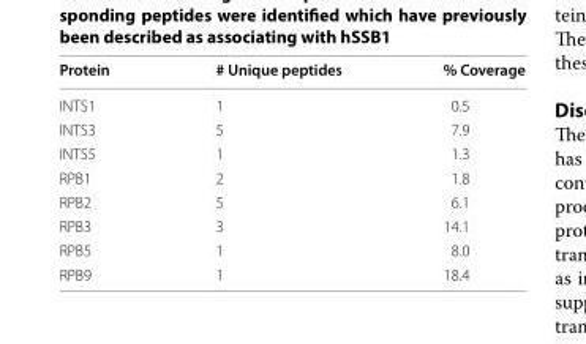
<table><thead><tr><td>Protein</td><td># Unique peptides</td><td>% Coverage</td></tr></thead><tbody><tr><td>INTS1</td><td>1</td><td>0.5</td></tr><tr><td>INTS3</td><td>5</td><td>7.9</td></tr><tr><td>INTS5</td><td>1</td><td>1.3</td></tr><tr><td>RPB1</td><td>2</td><td>1.8</td></tr><tr><td>RPB2</td><td>5</td><td>6.1</td></tr><tr><td>RPB3</td><td>3</td><td>14.1</td></tr><tr><td>RPB5</td><td>1</td><td>8.0</td></tr><tr><td>RPB9</td><td>1</td><td>18.4</td></tr></tbody></table>